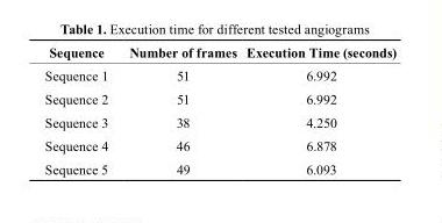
<table><thead><tr><td>sequence</td><td>Number of frames</td><td>execution Time (seconds)</td></tr></thead><tbody><tr><td>Sequence 1</td><td>51</td><td>6.992</td></tr><tr><td>Sequence 2</td><td>51</td><td>6.992</td></tr><tr><td>Sequence 3</td><td>38</td><td>4.250</td></tr><tr><td>Sequence 4</td><td>46</td><td>6.878</td></tr><tr><td>Sequence 5</td><td>49</td><td>6.093</td></tr></tbody></table>